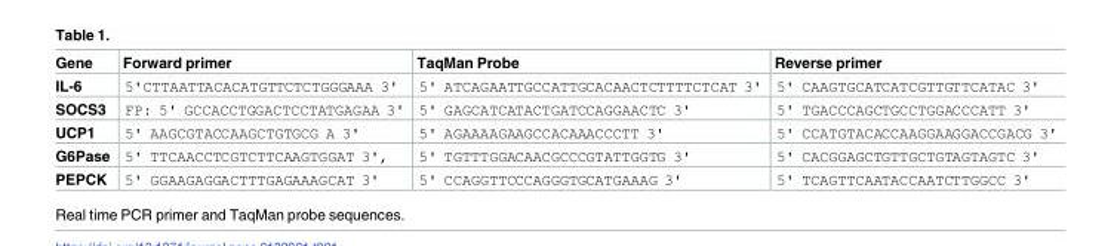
<table><thead><tr><td>Gene</td><td>Forward primer</td><td>TaqMan Probe</td><td>Reverse primer</td></tr></thead><tbody><tr><td>IL-6</td><td>5&#x27;CTTAATTACACATGTTCTCTGGGAAA 3&#x27;</td><td>5&#x27; ATCAGAATTGCCATTGCACAACTCTTTTCTCAT 3&#x27;</td><td>5&#x27; CAAGTGCATCATCGTTGTTCATAC 3&#x27;</td></tr><tr><td>SOCS3</td><td>FP: 5&#x27; GCCACCTGGACTCCTATGAGAA 3&#x27;</td><td>5&#x27; GAGCATCATACTGATCCAGGAACTC 3&#x27;</td><td>5&#x27; TGACCCAGCTGCCTGGACCCATT 3&#x27;</td></tr><tr><td>UCP1</td><td>5&#x27; AAGCGTACCAAGCTGTGCG A 3&#x27;</td><td>5&#x27; AGAAAAGAAGCCACAAACCCTT 3&#x27;</td><td>5&#x27; CCATGTACACCAAGGAAGGACCGACG 3&#x27;</td></tr><tr><td>G6Pase</td><td>5&#x27; TTCAACCTCGTCTTCAAGTGGAT 3&#x27;,</td><td>5&#x27; TGTTTGGACAACGCCCGTATTGGTG 3&#x27;</td><td>5&#x27; CACGGAGCTGTTGCTGTAGTAGTC 3&#x27;</td></tr><tr><td>PEPCK</td><td>5&#x27; GGAAGAGGACTTTGAGAAAGCAT 3&#x27;</td><td>5&#x27; CCAGGTTCCCAGGGTGCATGAAAG 3&#x27;</td><td>5&#x27; TCAGTTCAATACCAATCTTGGCC 3&#x27;</td></tr></tbody></table>